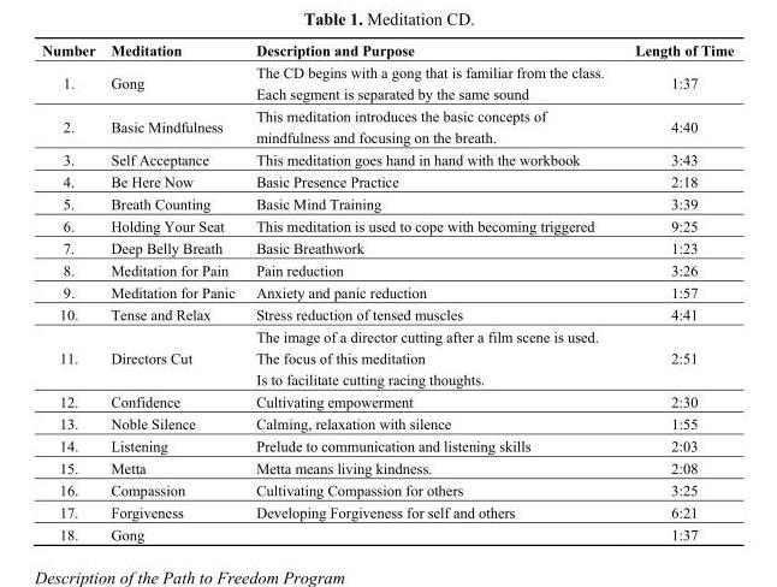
<table><thead><tr><td>Number</td><td>Meditation</td><td>Description and Purpose</td><td>Length of Time</td></tr></thead><tbody><tr><td>1.</td><td>Gong</td><td>The CD begins with a gong that is familiar from the class. Each segment is separated by the same sound</td><td>1:37</td></tr><tr><td>2.</td><td>Basic Mindfulness</td><td>This meditation introduces the basic concepts of mindfulness and focusing on the breath.</td><td>4:40</td></tr><tr><td>3.</td><td>Self Acceptance</td><td>This meditation goes hand in hand with the workbook</td><td>3:43</td></tr><tr><td>4.</td><td>Be Here Now</td><td>Basic Presence Practice</td><td>2:18</td></tr><tr><td>5.</td><td>Breath Counting</td><td>Basic Mind Training</td><td>3:39</td></tr><tr><td>6.</td><td>Holding Your Seat</td><td>This meditation is used to cope with becoming triggered</td><td>9:25</td></tr><tr><td>7.</td><td>Deep Belly Breath</td><td>Basic Breathwork</td><td>1:23</td></tr><tr><td>8.</td><td>Meditation for Pain</td><td>Pain reduction</td><td>3:26</td></tr><tr><td>9.</td><td>Meditation for Panic</td><td>Anxiety and panic reduction</td><td>1:57</td></tr><tr><td>10.</td><td>Tense and Relax</td><td>Stress reduction of tensed muscles</td><td>4:41</td></tr><tr><td>11.</td><td>Directors Cut</td><td>The image of a director cutting after a film scene is used. The focus of this meditation Is to facilitate cutting racing thoughts.</td><td>2:51</td></tr><tr><td>12.</td><td>Confidence</td><td>Cultivating empowerment</td><td>2:30</td></tr><tr><td>13.</td><td>Noble Silence</td><td>Calming, relaxation with silence</td><td>1:55</td></tr><tr><td>14.</td><td>Listening</td><td>Prelude to communication and listening skills</td><td>2:03</td></tr><tr><td>15.</td><td>Metta</td><td>Metta means living kindness.</td><td>2:08</td></tr><tr><td>16.</td><td>Compassion</td><td>Cultivating Compassion for others</td><td>3:25</td></tr><tr><td>17.</td><td>Forgiveness</td><td>Developing Forgiveness for self and others</td><td>6:21</td></tr><tr><td>18.</td><td>Gong</td><td></td><td>1:37</td></tr></tbody></table>